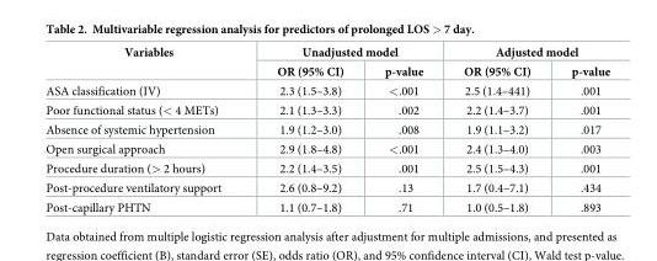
<table><thead><tr><td rowspan="2">Variables</td><td colspan="2">Unadjusted model</td><td colspan="2">Adjusted model</td></tr><tr><td>OR (95% CI)</td><td>p-value</td><td>OR (95% CI)</td><td>p-value</td></tr></thead><tbody><tr><td>ASA classification (IV)</td><td>2.3 (1.5–3.8)</td><td>&lt;.001</td><td>2.5 (1.4–441)</td><td>.001</td></tr><tr><td>Poor functional status (&lt; 4 METs)</td><td>2.1 (1.3–3.3)</td><td>.002</td><td>2.2 (1.4–3.7)</td><td>.001</td></tr><tr><td>Absence of systemic hypertension</td><td>1.9 (1.2–3.0)</td><td>.008</td><td>1.9 (1.1–3.2)</td><td>.017</td></tr><tr><td>Open surgical approach</td><td>2.9 (1.8–4.8)</td><td>&lt;.001</td><td>2.4 (1.3–4.0)</td><td>.003</td></tr><tr><td>Procedure duration (&gt; 2 hours)</td><td>2.2 (1.4–3.5)</td><td>.001</td><td>2.5 (1.5–4.3)</td><td>.001</td></tr><tr><td>Post-procedure ventilatory support</td><td>2.6 (0.8–9.2)</td><td>.13</td><td>1.7 (0.4–7.1)</td><td>.434</td></tr><tr><td>Post-capillary PHTN</td><td>1.1 (0.7–1.8)</td><td>.71</td><td>1.0 (0.5–1.8)</td><td>.893</td></tr></tbody></table>